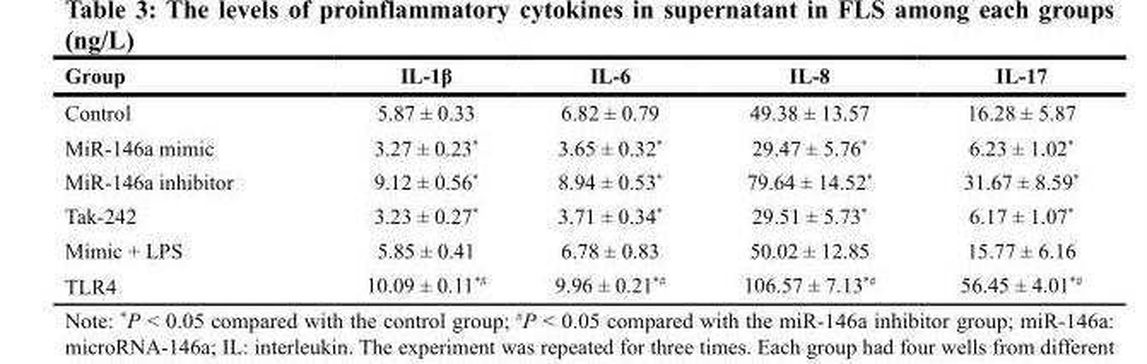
<table><thead><tr><td>Group</td><td>IL-1β</td><td>IL-6</td><td>IL-8</td><td>IL-17</td></tr></thead><tbody><tr><td>Control</td><td>5.87 ± 0.33</td><td>6.82 ± 0.79</td><td>49.38 ± 13.57</td><td>16.28 ± 5.87</td></tr><tr><td>MiR-146a mimic</td><td>3.27 ± 0.23*</td><td>3.65 ± 0.32*</td><td>29.47 ± 5.76*</td><td>6.23 ± 1.02*</td></tr><tr><td>MiR-146a inhibitor</td><td>9.12 ± 0.56*</td><td>8.94 ± 0.53*</td><td>79.64 ± 14.52*</td><td>31.67 ± 8.59*</td></tr><tr><td>Tak-242</td><td>3.23 ± 0.27*</td><td>3.71 ± 0.34*</td><td>29.51 ± 5.73*</td><td>6.17 ± 1.07*</td></tr><tr><td>Mimic + LPS</td><td>5.85 ± 0.41</td><td>6.78 ± 0.83</td><td>50.02 ± 12.85</td><td>15.77 ± 6.16</td></tr><tr><td>TLR4</td><td>10.09 ± 0.11<sup>*#</sup></td><td>9.96 ± 0.21<sup>*#</sup></td><td>106.57 ± 7.13<sup>*#</sup></td><td>56.45 ± 4.01<sup>*#</sup></td></tr></tbody></table>